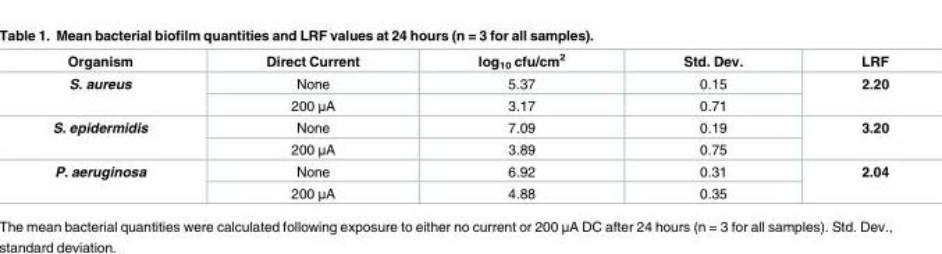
<table><thead><tr><td>Organism</td><td>Direct Current</td><td>log<sub>10</sub> cfu/cm<sup>2</sup></td><td>Std. Dev.</td><td>LRF</td></tr></thead><tbody><tr><td rowspan="2">S. aureus</td><td>None</td><td>5.37</td><td>0.15</td><td rowspan="2">2.20</td></tr><tr><td>200 μA</td><td>3.17</td><td>0.71</td></tr><tr><td rowspan="2">S. epidermidis</td><td>None</td><td>7.09</td><td>0.19</td><td rowspan="2">3.20</td></tr><tr><td>200 μA</td><td>3.89</td><td>0.75</td></tr><tr><td rowspan="2">P. aeruginosa</td><td>None</td><td>6.92</td><td>0.31</td><td rowspan="2">2.04</td></tr><tr><td>200 μA</td><td>4.88</td><td>0.35</td></tr></tbody></table>